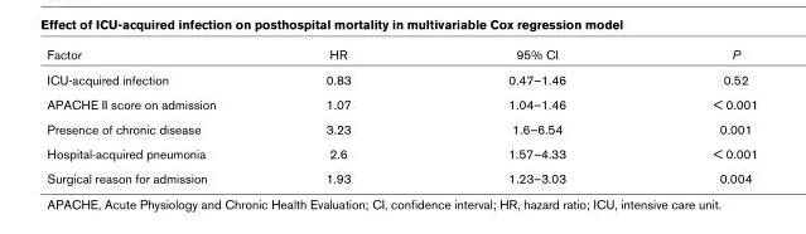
<table><thead><tr><td>Factor</td><td>HR</td><td>95% CI</td><td>P</td></tr></thead><tbody><tr><td>ICU-acquired infection</td><td>0.83</td><td>0.47–1.46</td><td>0.52</td></tr><tr><td>APACHE II score on admission</td><td>1.07</td><td>1.04–1.46</td><td>&lt; 0.001</td></tr><tr><td>Presence of chronic disease</td><td>3.23</td><td>1.6–6.54</td><td>0.001</td></tr><tr><td>Hospital-acquired pneumonia</td><td>2.6</td><td>1.57–4.33</td><td>&lt; 0.001</td></tr><tr><td>Surgical reason for admission</td><td>1.93</td><td>1.23–3.03</td><td>0.004</td></tr></tbody></table>